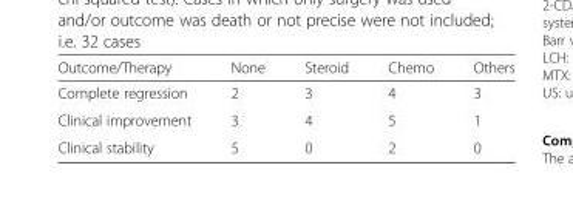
<table><thead><tr><td>Outcome/Therapy</td><td>None</td><td>Steroid</td><td>Chemo</td><td>Others</td></tr></thead><tbody><tr><td>Complete regression</td><td>2</td><td>3</td><td>4</td><td>3</td></tr><tr><td>Clinical improvement</td><td>3</td><td>4</td><td>5</td><td>1</td></tr><tr><td>Clinical stability</td><td>5</td><td>0</td><td>2</td><td>0</td></tr></tbody></table>